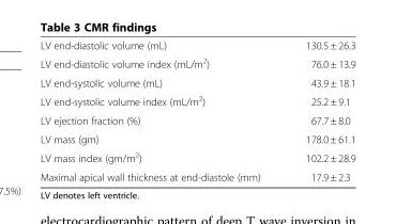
<table><tbody><tr><td>LV end-diastolic volume (mL)</td><td>130.5 ± 26.3</td></tr><tr><td>LV end-diastolic volume index (mL/m<sup>2</sup>)</td><td>76.0 ± 13.9</td></tr><tr><td>LV end-systolic volume (mL)</td><td>43.9 ± 18.1</td></tr><tr><td>LV end-systolic volume index (mL/m<sup>2</sup>)</td><td>25.2 ± 9.1</td></tr><tr><td>LV ejection fraction (%)</td><td>67.7 ± 8.0</td></tr><tr><td>LV mass (gm)</td><td>178.0 ± 61.1</td></tr><tr><td>LV mass index (gm/m<sup>2</sup>)</td><td>102.2 ± 28.9</td></tr><tr><td>Maximal apical wall thickness at end-diastole (mm)</td><td>17.9 ± 2.3</td></tr></tbody></table>